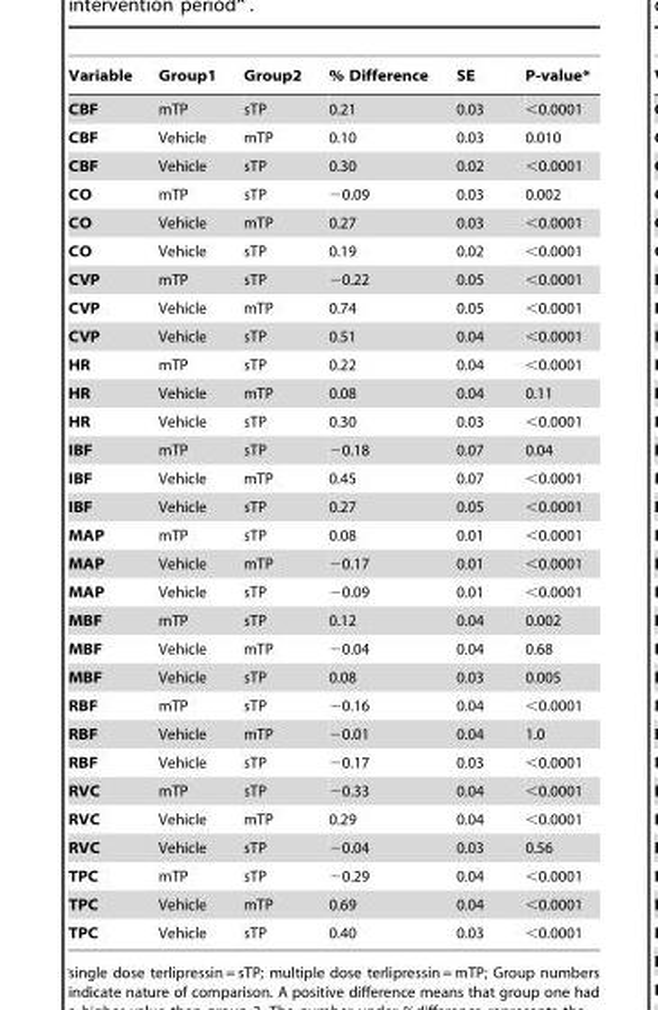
<table><thead><tr><td>Variable</td><td>Group1</td><td>Group2</td><td>% Difference</td><td>SE</td><td>P-value*</td></tr></thead><tbody><tr><td>CBF</td><td>mTP</td><td>sTP</td><td>0.21</td><td>0.03</td><td>&lt;0.0001</td></tr><tr><td>CBF</td><td>Vehicle</td><td>mTP</td><td>0.10</td><td>0.03</td><td>0.010</td></tr><tr><td>CBF</td><td>Vehicle</td><td>sTP</td><td>0.30</td><td>0.02</td><td>&lt;0.0001</td></tr><tr><td>CO</td><td>mTP</td><td>sTP</td><td>−0.09</td><td>0.03</td><td>0.002</td></tr><tr><td>CO</td><td>Vehicle</td><td>mTP</td><td>0.27</td><td>0.03</td><td>&lt;0.0001</td></tr><tr><td>CO</td><td>Vehicle</td><td>sTP</td><td>0.19</td><td>0.02</td><td>&lt;0.0001</td></tr><tr><td>CVP</td><td>mTP</td><td>sTP</td><td>−0.22</td><td>0.05</td><td>&lt;0.0001</td></tr><tr><td>CVP</td><td>Vehicle</td><td>mTP</td><td>0.74</td><td>0.05</td><td>&lt;0.0001</td></tr><tr><td>CVP</td><td>Vehicle</td><td>sTP</td><td>0.51</td><td>0.04</td><td>&lt;0.0001</td></tr><tr><td>HR</td><td>mTP</td><td>sTP</td><td>0.22</td><td>0.04</td><td>&lt;0.0001</td></tr><tr><td>HR</td><td>Vehicle</td><td>mTP</td><td>0.08</td><td>0.04</td><td>0.11</td></tr><tr><td>HR</td><td>Vehicle</td><td>sTP</td><td>0.30</td><td>0.03</td><td>&lt;0.0001</td></tr><tr><td>IBF</td><td>mTP</td><td>sTP</td><td>−0.18</td><td>0.07</td><td>0.04</td></tr><tr><td>IBF</td><td>Vehicle</td><td>mTP</td><td>0.45</td><td>0.07</td><td>&lt;0.0001</td></tr><tr><td>IBF</td><td>Vehicle</td><td>sTP</td><td>0.27</td><td>0.05</td><td>&lt;0.0001</td></tr><tr><td>MAP</td><td>mTP</td><td>sTP</td><td>0.08</td><td>0.01</td><td>&lt;0.0001</td></tr><tr><td>MAP</td><td>Vehicle</td><td>mTP</td><td>−0.17</td><td>0.01</td><td>&lt;0.0001</td></tr><tr><td>MAP</td><td>Vehicle</td><td>sTP</td><td>−0.09</td><td>0.01</td><td>&lt;0.0001</td></tr><tr><td>MBF</td><td>mTP</td><td>sTP</td><td>0.12</td><td>0.04</td><td>0.002</td></tr><tr><td>MBF</td><td>Vehicle</td><td>mTP</td><td>−0.04</td><td>0.04</td><td>0.68</td></tr><tr><td>MBF</td><td>Vehicle</td><td>sTP</td><td>0.08</td><td>0.03</td><td>0.005</td></tr><tr><td>RBF</td><td>mTP</td><td>sTP</td><td>−0.16</td><td>0.04</td><td>&lt;0.0001</td></tr><tr><td>RBF</td><td>Vehicle</td><td>mTP</td><td>−0.01</td><td>0.04</td><td>1.0</td></tr><tr><td>RBF</td><td>Vehicle</td><td>sTP</td><td>−0.17</td><td>0.03</td><td>&lt;0.0001</td></tr><tr><td>RVC</td><td>mTP</td><td>sTP</td><td>−0.33</td><td>0.04</td><td>&lt;0.0001</td></tr><tr><td>RVC</td><td>Vehicle</td><td>mTP</td><td>0.29</td><td>0.04</td><td>&lt;0.0001</td></tr><tr><td>RVC</td><td>Vehicle</td><td>sTP</td><td>−0.04</td><td>0.03</td><td>0.56</td></tr><tr><td>TPC</td><td>mTP</td><td>sTP</td><td>−0.29</td><td>0.04</td><td>&lt;0.0001</td></tr><tr><td>TPC</td><td>Vehicle</td><td>mTP</td><td>0.69</td><td>0.04</td><td>&lt;0.0001</td></tr><tr><td>TPC</td><td>Vehicle</td><td>sTP</td><td>0.40</td><td>0.03</td><td>&lt;0.0001</td></tr></tbody></table>